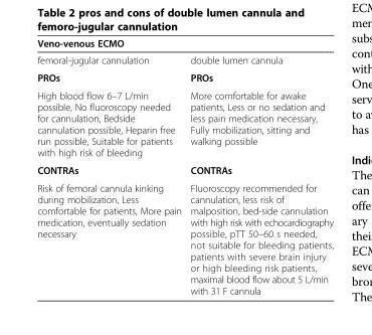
<table><thead><tr><td colspan="2">Veno-venous ECMO</td></tr><tr><td>femoral-jugular cannulation</td><td>double lumen cannula</td></tr></thead><tbody><tr><td>PROs</td><td>PROs</td></tr><tr><td>High blood flow 6–7 L/min possible, No fluoroscopy needed for cannulation, Bedside cannulation possible, Heparin free run possible, Suitable for patients with high risk of bleeding</td><td>More comfortable for awake patients, Less or no sedation and less pain medication necessary, Fully mobilization, sitting and walking possible</td></tr><tr><td>CONTRAs</td><td>CONTRAs</td></tr><tr><td>Risk of femoral cannula kinking during mobilization, Less comfortable for patients, More pain medication, eventually sedation necessary</td><td>Fluoroscopy recommended for cannulation, less risk of malposition, bed-side cannulation with high risk with echocardiography possible, pTT 50–60 s needed, not suitable for bleeding patients, patients with severe brain injury or high bleeding risk patients, maximal blood flow about 5 L/min with 31 F cannula</td></tr></tbody></table>